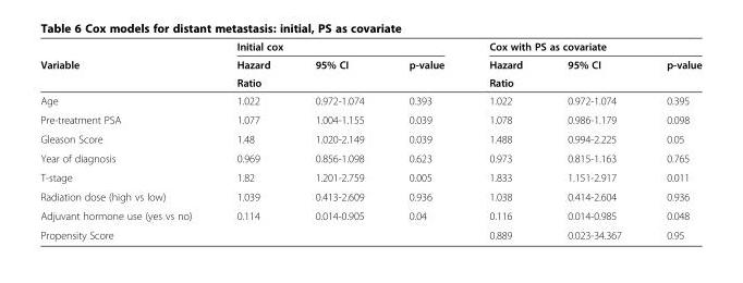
<table><thead><tr><td rowspan="3">Variable</td><td colspan="3">Initial cox</td><td colspan="3">Cox with PS as covariate</td></tr><tr><td rowspan="2">Hazard Ratio</td><td rowspan="2">95% CI</td><td rowspan="2">p-value</td><td rowspan="2">Hazard Ratio</td><td rowspan="2">95% CI</td><td rowspan="2">p-value</td></tr><tr></tr></thead><tbody><tr><td>Age</td><td>1.022</td><td>0.972-1.074</td><td>0.393</td><td>1.022</td><td>0.972-1.074</td><td>0.395</td></tr><tr><td>Pre-treatment PSA</td><td>1.077</td><td>1.004-1.155</td><td>0.039</td><td>1.078</td><td>0.986-1.179</td><td>0.098</td></tr><tr><td>Gleason Score</td><td>1.48</td><td>1.020-2.149</td><td>0.039</td><td>1.488</td><td>0.994-2.225</td><td>0.05</td></tr><tr><td>Year of diagnosis</td><td>0.969</td><td>0.856-1.098</td><td>0.623</td><td>0.973</td><td>0.815-1.163</td><td>0.765</td></tr><tr><td>T-stage</td><td>1.82</td><td>1.201-2.759</td><td>0.005</td><td>1.833</td><td>1.151-2.917</td><td>0.011</td></tr><tr><td>Radiation dose (high vs low)</td><td>1.039</td><td>0.413-2.609</td><td>0.936</td><td>1.038</td><td>0.414-2.604</td><td>0.936</td></tr><tr><td>Adjuvant hormone use (yes vs no)</td><td>0.114</td><td>0.014-0.905</td><td>0.04</td><td>0.116</td><td>0.014-0.985</td><td>0.048</td></tr><tr><td>Propensity Score</td><td></td><td></td><td></td><td>0.889</td><td>0.023-34.367</td><td>0.95</td></tr></tbody></table>